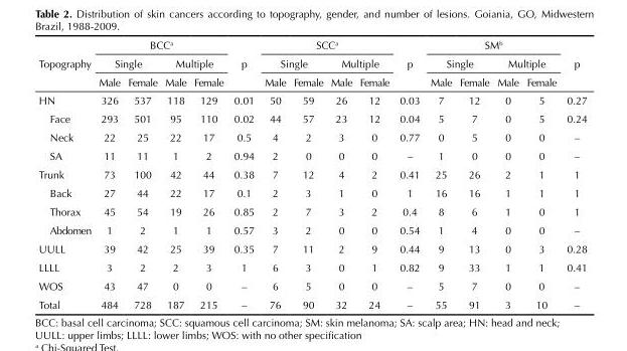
<table><thead><tr><td rowspan="3">Topography</td><td colspan="4">BCC<sup>a</sup></td><td rowspan="3">p</td><td colspan="4">SCC<sup>a</sup></td><td rowspan="3">p</td><td colspan="4">SM<sup>b</sup></td><td rowspan="3">p</td></tr><tr><td colspan="2">Single</td><td colspan="2">Multiple</td><td colspan="2">Single</td><td colspan="2">Multiple</td><td colspan="2">Single</td><td colspan="2">Multiple</td></tr><tr><td>Male</td><td>Female</td><td>Male</td><td>Female</td><td>Male</td><td>Female</td><td>Male</td><td>Female</td><td>Male</td><td>Female</td><td>Male</td><td>Female</td></tr></thead><tbody><tr><td>HN</td><td>326</td><td>537</td><td>118</td><td>129</td><td>0.01</td><td>50</td><td>59</td><td>26</td><td>12</td><td>0.03</td><td>7</td><td>12</td><td>0</td><td>5</td><td>0.27</td></tr><tr><td>Face</td><td>293</td><td>501</td><td>95</td><td>110</td><td>0.02</td><td>44</td><td>57</td><td>23</td><td>12</td><td>0.04</td><td>5</td><td>7</td><td>0</td><td>5</td><td>0.24</td></tr><tr><td>Neck</td><td>22</td><td>25</td><td>22</td><td>17</td><td>0.5</td><td>4</td><td>2</td><td>3</td><td>0</td><td>0.77</td><td>0</td><td>5</td><td>0</td><td>0</td><td>–</td></tr><tr><td>SA</td><td>11</td><td>11</td><td>1</td><td>2</td><td>0.94</td><td>2</td><td>0</td><td>0</td><td>0</td><td>–</td><td>1</td><td>0</td><td>0</td><td>0</td><td>–</td></tr><tr><td>Trunk</td><td>73</td><td>100</td><td>42</td><td>44</td><td>0.38</td><td>7</td><td>12</td><td>4</td><td>2</td><td>0.41</td><td>25</td><td>26</td><td>2</td><td>1</td><td>1</td></tr><tr><td>Back</td><td>27</td><td>44</td><td>22</td><td>17</td><td>0.1</td><td>2</td><td>3</td><td>1</td><td>0</td><td>1</td><td>16</td><td>16</td><td>1</td><td>1</td><td>1</td></tr><tr><td>Thorax</td><td>45</td><td>54</td><td>19</td><td>26</td><td>0.85</td><td>2</td><td>7</td><td>3</td><td>2</td><td>0.4</td><td>8</td><td>6</td><td>1</td><td>0</td><td>1</td></tr><tr><td>Abdomen</td><td>1</td><td>2</td><td>1</td><td>1</td><td>0.57</td><td>3</td><td>2</td><td>0</td><td>0</td><td>0.54</td><td>1</td><td>4</td><td>0</td><td>0</td><td>–</td></tr><tr><td>UULL</td><td>39</td><td>42</td><td>25</td><td>39</td><td>0.35</td><td>7</td><td>11</td><td>2</td><td>9</td><td>0.44</td><td>9</td><td>13</td><td>0</td><td>3</td><td>0.28</td></tr><tr><td>LLLL</td><td>3</td><td>2</td><td>2</td><td>3</td><td>1</td><td>6</td><td>3</td><td>0</td><td>1</td><td>0.82</td><td>9</td><td>33</td><td>1</td><td>1</td><td>0.41</td></tr><tr><td>WOS</td><td>43</td><td>47</td><td>0</td><td>0</td><td>–</td><td>6</td><td>5</td><td>0</td><td>0</td><td>–</td><td>5</td><td>7</td><td>0</td><td>0</td><td>–</td></tr><tr><td>Total</td><td>484</td><td>728</td><td>187</td><td>215</td><td>–</td><td>76</td><td>90</td><td>32</td><td>24</td><td>–</td><td>55</td><td>91</td><td>3</td><td>10</td><td>–</td></tr></tbody></table>